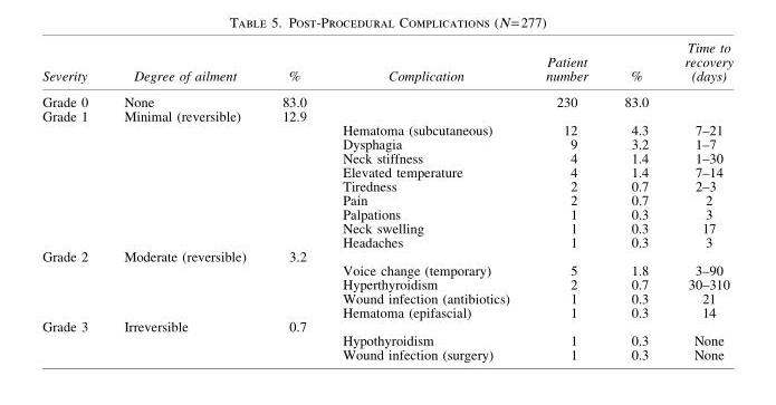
<table><thead><tr><td>Severity</td><td>Degree of ailment</td><td>%</td><td>Complication</td><td>Patient number</td><td>%</td><td>Time to recovery (days)</td></tr></thead><tbody><tr><td>Grade 0</td><td>None</td><td>83.0</td><td></td><td>230</td><td>83.0</td><td></td></tr><tr><td rowspan="10">Grade 1</td><td>Minimal (reversible)</td><td>12.9</td><td></td><td></td><td></td><td></td></tr><tr><td></td><td></td><td>Hematoma (subcutaneous)</td><td>12</td><td>4.3</td><td>7–21</td></tr><tr><td></td><td></td><td>Dysphagia</td><td>9</td><td>3.2</td><td>1–7</td></tr><tr><td></td><td></td><td>Neck stiffness</td><td>4</td><td>1.4</td><td>1–30</td></tr><tr><td></td><td></td><td>Elevated temperature</td><td>4</td><td>1.4</td><td>7–14</td></tr><tr><td></td><td></td><td>Tiredness</td><td>2</td><td>0.7</td><td>2–3</td></tr><tr><td></td><td></td><td>Pain</td><td>2</td><td>0.7</td><td>2</td></tr><tr><td></td><td></td><td>Palpations</td><td>1</td><td>0.3</td><td>3</td></tr><tr><td></td><td></td><td>Neck swelling</td><td>1</td><td>0.3</td><td>17</td></tr><tr><td></td><td></td><td>Headaches</td><td>1</td><td>0.3</td><td>3</td></tr><tr><td rowspan="5">Grade 2</td><td>Moderate (reversible)</td><td>3.2</td><td></td><td></td><td></td><td></td></tr><tr><td></td><td></td><td>Voice change (temporary)</td><td>5</td><td>1.8</td><td>3–90</td></tr><tr><td></td><td></td><td>Hyperthyroidism</td><td>2</td><td>0.7</td><td>30–310</td></tr><tr><td></td><td></td><td>Wound infection (antibiotics)</td><td>1</td><td>0.3</td><td>21</td></tr><tr><td></td><td></td><td>Hematoma (epifascial)</td><td>1</td><td>0.3</td><td>14</td></tr><tr><td rowspan="3">Grade 3</td><td>Irreversible</td><td>0.7</td><td></td><td></td><td></td><td></td></tr><tr><td></td><td></td><td>Hypothyroidism</td><td>1</td><td>0.3</td><td>None</td></tr><tr><td></td><td></td><td>Wound infection (surgery)</td><td>1</td><td>0.3</td><td>None</td></tr></tbody></table>